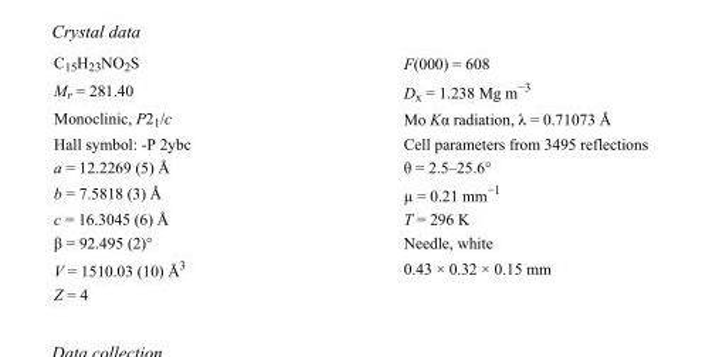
<table><tbody><tr><td>C<sub>15</sub>H<sub>23</sub>NO<sub>2</sub>S</td><td>F(000) = 608</td></tr><tr><td>M<sub>r</sub> = 281.40</td><td>D<sub>x</sub> = 1.238 Mg m<sup>−3</sup></td></tr><tr><td>Monoclinic, P2<sub>1</sub>/c</td><td>Mo Kα radiation, λ = 0.71073 Å</td></tr><tr><td>Hall symbol: -P 2ybc</td><td>Cell parameters from 3495 reflections</td></tr><tr><td>a = 12.2269 (5) Å</td><td>θ = 2.5–25.6°</td></tr><tr><td>b = 7.5818 (3) Å</td><td>µ = 0.21 mm<sup>−1</sup></td></tr><tr><td>c = 16.3045 (6) Å</td><td>T = 296 K</td></tr><tr><td>β = 92.495 (2)°</td><td>Needle, white</td></tr><tr><td>V = 1510.03 (10) Å<sup>3</sup></td><td>0.43 × 0.32 × 0.15 mm</td></tr><tr><td>Z = 4</td><td></td></tr></tbody></table>